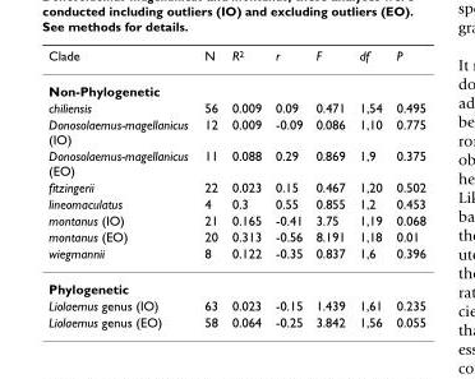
<table><thead><tr><td>Clade</td><td>N</td><td>R<sup>2</sup></td><td>r</td><td>F</td><td>df</td><td>P</td></tr></thead><tbody><tr><td colspan="7">Non-Phylogenetic</td></tr><tr><td>chiliensis</td><td>56</td><td>0.009</td><td>0.09</td><td>0.471</td><td>1,54</td><td>0.495</td></tr><tr><td>Donosolaemus-magellanicus (IO)</td><td>12</td><td>0.009</td><td>-0.09</td><td>0.086</td><td>1,10</td><td>0.775</td></tr><tr><td>Donosolaemus-magellanicus (EO)</td><td>11</td><td>0.088</td><td>0.29</td><td>0.869</td><td>1,9</td><td>0.375</td></tr><tr><td>fitzingerii</td><td>22</td><td>0.023</td><td>0.15</td><td>0.467</td><td>1,20</td><td>0.502</td></tr><tr><td>lineomaculatus</td><td>4</td><td>0.3</td><td>0.55</td><td>0.855</td><td>1,2</td><td>0.453</td></tr><tr><td>montanus (IO)</td><td>21</td><td>0.165</td><td>-0.41</td><td>3.75</td><td>1,19</td><td>0.068</td></tr><tr><td>montanus (EO)</td><td>20</td><td>0.313</td><td>-0.56</td><td>8.191</td><td>1,18</td><td>0.01</td></tr><tr><td>wiegmannii</td><td>8</td><td>0.122</td><td>-0.35</td><td>0.837</td><td>1,6</td><td>0.396</td></tr><tr><td colspan="7">Phylogenetic</td></tr><tr><td>Liolaemus genus (IO)</td><td>63</td><td>0.023</td><td>-0.15</td><td>1.439</td><td>1,61</td><td>0.235</td></tr><tr><td>Liolaemus genus (EO)</td><td>58</td><td>0.064</td><td>-0.25</td><td>3.842</td><td>1,56</td><td>0.055</td></tr></tbody></table>